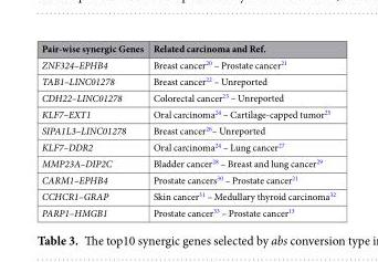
<table><thead><tr><td>Pair-wise synergic Genes</td><td>Related carcinoma and Ref.</td></tr></thead><tbody><tr><td>ZNF324–EPHB4</td><td>Breast cancer<sup>20</sup> – Prostate cancer<sup>21</sup></td></tr><tr><td>TAB1–LINC01278</td><td>Breast cancer<sup>22</sup> – Unreported</td></tr><tr><td>CDH22–LINC01278</td><td>Colorectal cancer<sup>23</sup> – Unreported</td></tr><tr><td>KLF7–EXT1</td><td>Oral carcinoma<sup>24</sup> – Cartilage-capped tumor<sup>25</sup></td></tr><tr><td>SIPA1L3–LINC01278</td><td>Breast cancer<sup>26</sup>– Unreported</td></tr><tr><td>KLF7–DDR2</td><td>Oral carcinoma<sup>24</sup> – Lung cancer<sup>27</sup></td></tr><tr><td>MMP23A–DIP2C</td><td>Bladder cancer<sup>28</sup> – Breast and lung cancer<sup>29</sup></td></tr><tr><td>CARM1–EPHB4</td><td>Prostate cancers<sup>30</sup> – Prostate cancer<sup>21</sup></td></tr><tr><td>CCHCR1–GRAP</td><td>Skin cancer<sup>31</sup> – Medullary thyroid carcinoma<sup>32</sup></td></tr><tr><td>PARP1–HMGB1</td><td>Prostate cancer<sup>33</sup> – Prostate cancer<sup>13</sup></td></tr></tbody></table>